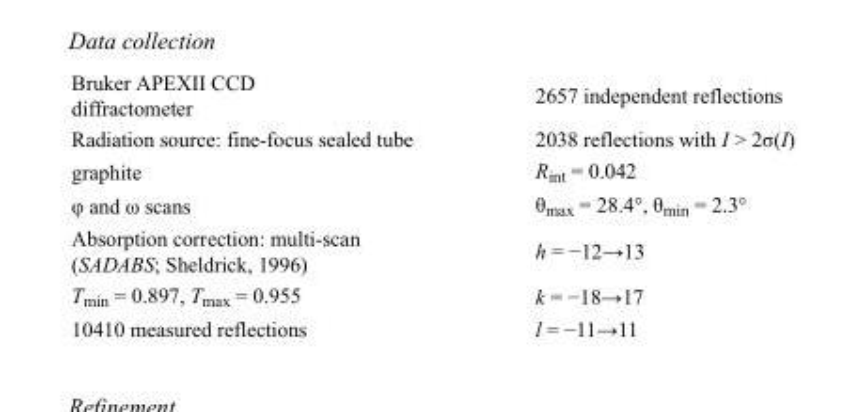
<table><tbody><tr><td>Bruker APEXII CCD diffractometer</td><td>2657 independent reflections</td></tr><tr><td>Radiation source: fine-focus sealed tube</td><td>2038 reflections with I &gt; 2σ(I)</td></tr><tr><td>graphite</td><td>R<sub>int</sub> = 0.042</td></tr><tr><td>φ and ω scans</td><td>θ<sub>max</sub> = 28.4°, θ<sub>min</sub> = 2.3°</td></tr><tr><td>Absorption correction: multi-scan (SADABS; Sheldrick, 1996)</td><td>h = −12→13</td></tr><tr><td>T<sub>min</sub> = 0.897, T<sub>max</sub> = 0.955</td><td>k = −18→17</td></tr><tr><td>10410 measured reflections</td><td>l = −11→11</td></tr></tbody></table>